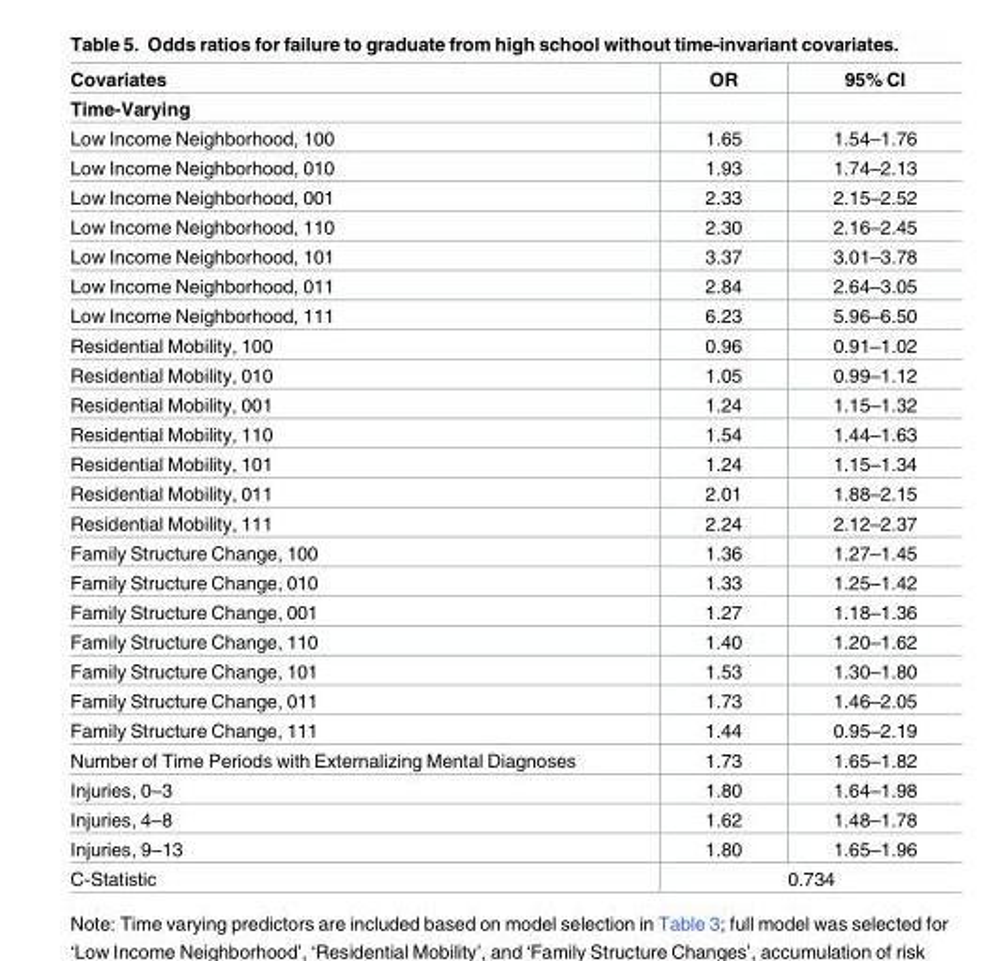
<table><thead><tr><td>Covariates</td><td>OR</td><td>95% CI</td></tr></thead><tbody><tr><td colspan="3">Time-Varying</td></tr><tr><td>Low Income Neighborhood, 100</td><td>1.65</td><td>1.54–1.76</td></tr><tr><td>Low Income Neighborhood, 010</td><td>1.93</td><td>1.74–2.13</td></tr><tr><td>Low Income Neighborhood, 001</td><td>2.33</td><td>2.15–2.52</td></tr><tr><td>Low Income Neighborhood, 110</td><td>2.30</td><td>2.16–2.45</td></tr><tr><td>Low Income Neighborhood, 101</td><td>3.37</td><td>3.01–3.78</td></tr><tr><td>Low Income Neighborhood, 011</td><td>2.84</td><td>2.64–3.05</td></tr><tr><td>Low Income Neighborhood, 111</td><td>6.23</td><td>5.96–6.50</td></tr><tr><td>Residential Mobility, 100</td><td>0.96</td><td>0.91–1.02</td></tr><tr><td>Residential Mobility, 010</td><td>1.05</td><td>0.99–1.12</td></tr><tr><td>Residential Mobility, 001</td><td>1.24</td><td>1.15–1.32</td></tr><tr><td>Residential Mobility, 110</td><td>1.54</td><td>1.44–1.63</td></tr><tr><td>Residential Mobility, 101</td><td>1.24</td><td>1.15–1.34</td></tr><tr><td>Residential Mobility, 011</td><td>2.01</td><td>1.88–2.15</td></tr><tr><td>Residential Mobility, 111</td><td>2.24</td><td>2.12–2.37</td></tr><tr><td>Family Structure Change, 100</td><td>1.36</td><td>1.27–1.45</td></tr><tr><td>Family Structure Change, 010</td><td>1.33</td><td>1.25–1.42</td></tr><tr><td>Family Structure Change, 001</td><td>1.27</td><td>1.18–1.36</td></tr><tr><td>Family Structure Change, 110</td><td>1.40</td><td>1.20–1.62</td></tr><tr><td>Family Structure Change, 101</td><td>1.53</td><td>1.30–1.80</td></tr><tr><td>Family Structure Change, 011</td><td>1.73</td><td>1.46–2.05</td></tr><tr><td>Family Structure Change, 111</td><td>1.44</td><td>0.95–2.19</td></tr><tr><td>Number of Time Periods with Externalizing Mental Diagnoses</td><td>1.73</td><td>1.65–1.82</td></tr><tr><td>Injuries, 0–3</td><td>1.80</td><td>1.64–1.98</td></tr><tr><td>Injuries, 4–8</td><td>1.62</td><td>1.48–1.78</td></tr><tr><td>Injuries, 9–13</td><td>1.80</td><td>1.65–1.96</td></tr><tr><td>C-Statistic</td><td colspan="2">0.734</td></tr></tbody></table>